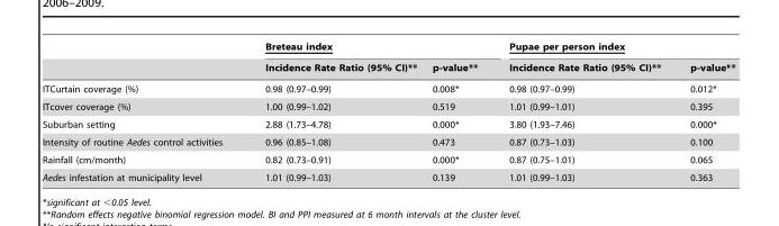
<table><thead><tr><td rowspan="2"></td><td colspan="2">Breteau index</td><td colspan="2">Pupae per person index</td></tr><tr><td>Incidence Rate Ratio (95% CI)**</td><td>p-value**</td><td>Incidence Rate Ratio (95% CI)**</td><td>p-value**</td></tr></thead><tbody><tr><td>ITCurtain coverage (%)</td><td>0.98 (0.97–0.99)</td><td>0.008*</td><td>0.98 (0.97–0.99)</td><td>0.012*</td></tr><tr><td>ITcover coverage (%)</td><td>1.00 (0.99–1.02)</td><td>0.519</td><td>1.01 (0.99–1.01)</td><td>0.395</td></tr><tr><td>Suburban setting</td><td>2.88 (1.73–4.78)</td><td>0.000*</td><td>3.80 (1.93–7.46)</td><td>0.000*</td></tr><tr><td>Intensity of routine Aedes control activities</td><td>0.96 (0.85–1.08)</td><td>0.473</td><td>0.87 (0.73–1.03)</td><td>0.100</td></tr><tr><td>Rainfall (cm/month)</td><td>0.82 (0.73–0.91)</td><td>0.000*</td><td>0.87 (0.75–1.01)</td><td>0.065</td></tr><tr><td>Aedes infestation at municipality level</td><td>1.01 (0.99–1.03)</td><td>0.139</td><td>1.01 (0.99–1.03)</td><td>0.363</td></tr></tbody></table>